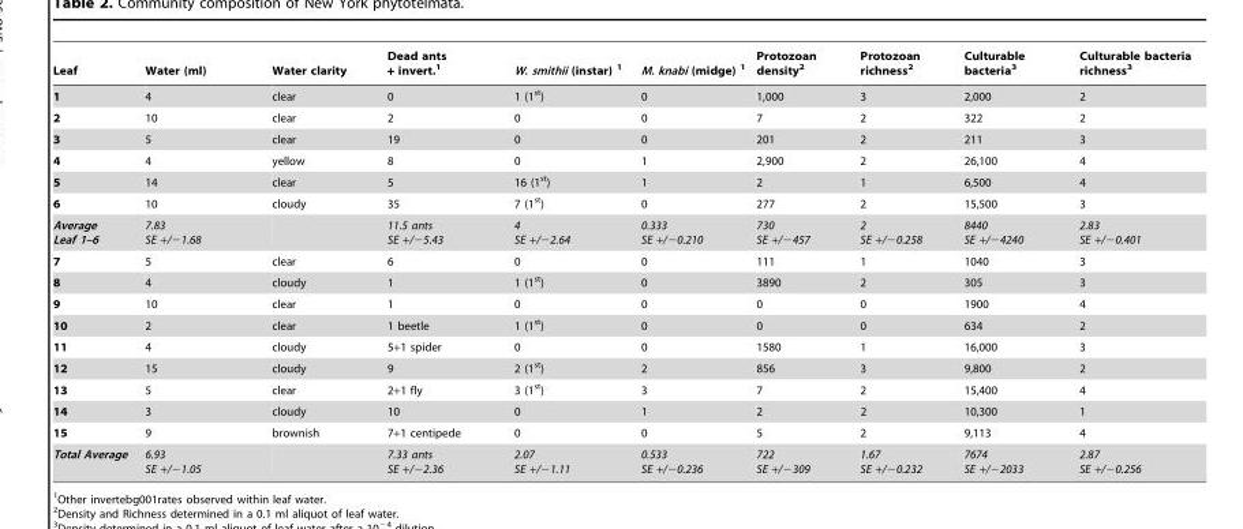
<table><thead><tr><td>Leaf</td><td>Water (ml)</td><td>Water clarity</td><td>Dead ants + invert.<sup>1</sup></td><td>W. smithii (instar) 1</td><td>M. knabi (midge) 1</td><td>Protozoan density<sup>2</sup></td><td>Protozoan richness<sup>2</sup></td><td>Culturable bacteria<sup>3</sup></td><td>Culturable bacteria richness<sup>3</sup></td></tr></thead><tbody><tr><td>1</td><td>4</td><td>clear</td><td>0</td><td>1 (1<sup>st</sup>)</td><td>0</td><td>1,000</td><td>3</td><td>2,000</td><td>2</td></tr><tr><td>2</td><td>10</td><td>clear</td><td>2</td><td>0</td><td>0</td><td>7</td><td>2</td><td>322</td><td>2</td></tr><tr><td>3</td><td>5</td><td>clear</td><td>19</td><td>0</td><td>0</td><td>201</td><td>2</td><td>211</td><td>3</td></tr><tr><td>4</td><td>4</td><td>yellow</td><td>8</td><td>0</td><td>1</td><td>2,900</td><td>2</td><td>26,100</td><td>4</td></tr><tr><td>5</td><td>14</td><td>clear</td><td>5</td><td>16 (1<sup>st</sup>)</td><td>1</td><td>2</td><td>1</td><td>6,500</td><td>4</td></tr><tr><td>6</td><td>10</td><td>cloudy</td><td>35</td><td>7 (1<sup>st</sup>)</td><td>0</td><td>277</td><td>2</td><td>15,500</td><td>3</td></tr><tr><td>Average Leaf 1–6</td><td>7.83 SE +/−1.68</td><td></td><td>11.5 ants SE +/−5.43</td><td>4 SE +/−2.64</td><td>0.333 SE +/−0.210</td><td>730 SE +/−457</td><td>2 SE +/−0.258</td><td>8440 SE +/−4240</td><td>2.83 SE +/−0.401</td></tr><tr><td>7</td><td>5</td><td>clear</td><td>6</td><td>0</td><td>0</td><td>111</td><td>1</td><td>1040</td><td>3</td></tr><tr><td>8</td><td>4</td><td>cloudy</td><td>1</td><td>1 (1<sup>st</sup>)</td><td>0</td><td>3890</td><td>2</td><td>305</td><td>3</td></tr><tr><td>9</td><td>10</td><td>clear</td><td>1</td><td>0</td><td>0</td><td>0</td><td>0</td><td>1900</td><td>4</td></tr><tr><td>10</td><td>2</td><td>clear</td><td>1 beetle</td><td>1 (1<sup>st</sup>)</td><td>0</td><td>0</td><td>0</td><td>634</td><td>2</td></tr><tr><td>11</td><td>4</td><td>cloudy</td><td>5+1 spider</td><td>0</td><td>0</td><td>1580</td><td>1</td><td>16,000</td><td>3</td></tr><tr><td>12</td><td>15</td><td>cloudy</td><td>9</td><td>2 (1<sup>st</sup>)</td><td>2</td><td>856</td><td>3</td><td>9,800</td><td>2</td></tr><tr><td>13</td><td>5</td><td>clear</td><td>2+1 fly</td><td>3 (1<sup>st</sup>)</td><td>3</td><td>7</td><td>2</td><td>15,400</td><td>4</td></tr><tr><td>14</td><td>3</td><td>cloudy</td><td>10</td><td>0</td><td>1</td><td>2</td><td>2</td><td>10,300</td><td>1</td></tr><tr><td>15</td><td>9</td><td>brownish</td><td>7+1 centipede</td><td>0</td><td>0</td><td>5</td><td>2</td><td>9,113</td><td>4</td></tr><tr><td>Total Average</td><td>6.93 SE +/−1.05</td><td></td><td>7.33 ants SE +/−2.36</td><td>2.07 SE +/−1.11</td><td>0.533 SE +/−0.236</td><td>722 SE +/−309</td><td>1.67 SE +/−0.232</td><td>7674 SE +/−2033</td><td>2.87 SE +/−0.256</td></tr></tbody></table>